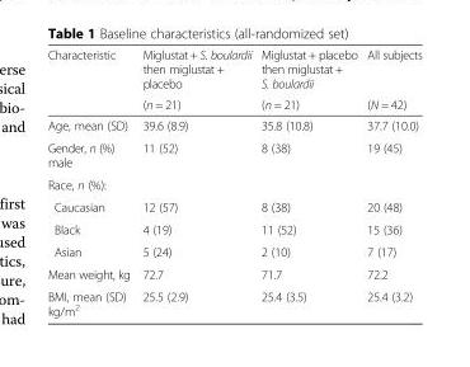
<table><thead><tr><td rowspan="2">Characteristic</td><td rowspan="2">Miglustat + S. boulardii then miglustat + placebo (n = 21)</td><td rowspan="2">Miglustat + placebo then miglustat + S. boulardii (n = 21)</td><td rowspan="2">All subjects (N = 42)</td></tr><tr></tr></thead><tbody><tr><td>Age, mean (SD)</td><td>39.6 (8.9)</td><td>35.8 (10.8)</td><td>37.7 (10.0)</td></tr><tr><td>Gender, n (%) male</td><td>11 (52)</td><td>8 (38)</td><td>19 (45)</td></tr><tr><td colspan="4">Race, n (%):</td></tr><tr><td>Caucasian</td><td>12 (57)</td><td>8 (38)</td><td>20 (48)</td></tr><tr><td>Black</td><td>4 (19)</td><td>11 (52)</td><td>15 (36)</td></tr><tr><td>Asian</td><td>5 (24)</td><td>2 (10)</td><td>7 (17)</td></tr><tr><td>Mean weight, kg</td><td>72.7</td><td>71.7</td><td>72.2</td></tr><tr><td>BMI, mean (SD) kg/m<sup>2</sup></td><td>25.5 (2.9)</td><td>25.4 (3.5)</td><td>25.4 (3.2)</td></tr></tbody></table>